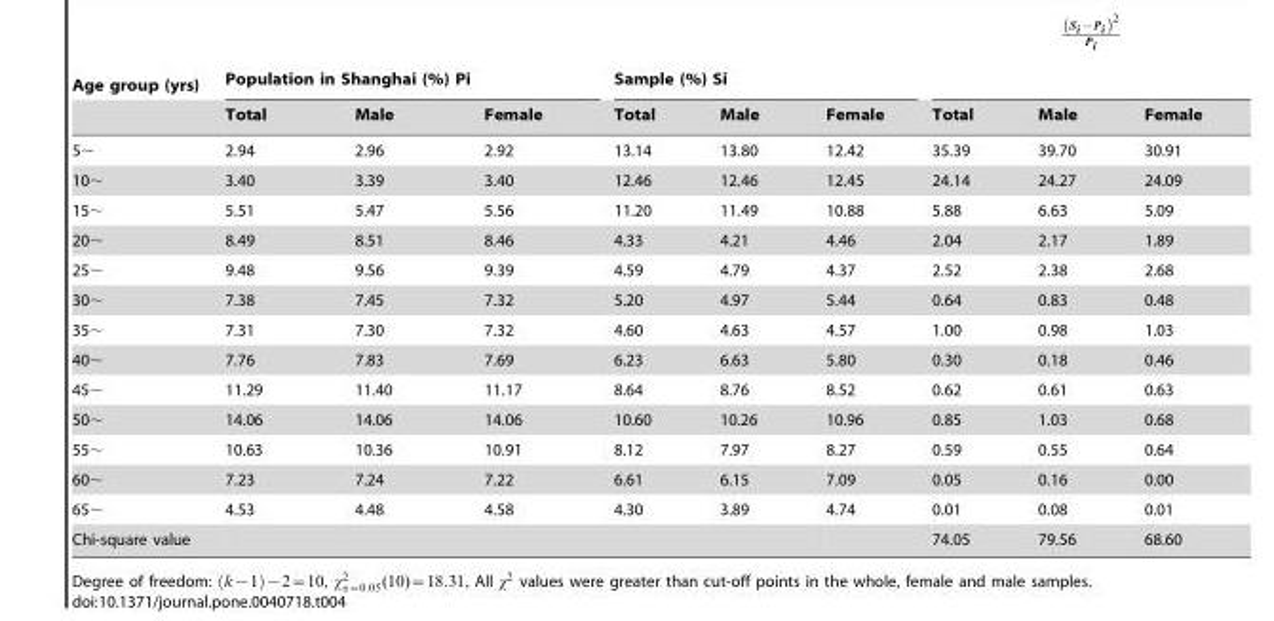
<table><thead><tr><td rowspan="2">Age group (yrs)</td><td colspan="3">Population in Shanghai (%) Pi</td><td colspan="3">Sample (%) Si</td><td rowspan="2">Total</td><td rowspan="2">Male</td><td rowspan="2">Female</td></tr><tr><td>Total</td><td>Male</td><td>Female</td><td>Total</td><td>Male</td><td>Female</td></tr></thead><tbody><tr><td>5∼</td><td>2.94</td><td>2.96</td><td>2.92</td><td>13.14</td><td>13.80</td><td>12.42</td><td>35.39</td><td>39.70</td><td>30.91</td></tr><tr><td>10∼</td><td>3.40</td><td>3.39</td><td>3.40</td><td>12.46</td><td>12.46</td><td>12.45</td><td>24.14</td><td>24.27</td><td>24.09</td></tr><tr><td>15∼</td><td>5.51</td><td>5.47</td><td>5.56</td><td>11.20</td><td>11.49</td><td>10.88</td><td>5.88</td><td>6.63</td><td>5.09</td></tr><tr><td>20∼</td><td>8.49</td><td>8.51</td><td>8.46</td><td>4.33</td><td>4.21</td><td>4.46</td><td>2.04</td><td>2.17</td><td>1.89</td></tr><tr><td>25∼</td><td>9.48</td><td>9.56</td><td>9.39</td><td>4.59</td><td>4.79</td><td>4.37</td><td>2.52</td><td>2.38</td><td>2.68</td></tr><tr><td>30∼</td><td>7.38</td><td>7.45</td><td>7.32</td><td>5.20</td><td>4.97</td><td>5.44</td><td>0.64</td><td>0.83</td><td>0.48</td></tr><tr><td>35∼</td><td>7.31</td><td>7.30</td><td>7.32</td><td>4.60</td><td>4.63</td><td>4.57</td><td>1.00</td><td>0.98</td><td>1.03</td></tr><tr><td>40∼</td><td>7.76</td><td>7.83</td><td>7.69</td><td>6.23</td><td>6.63</td><td>5.80</td><td>0.30</td><td>0.18</td><td>0.46</td></tr><tr><td>45∼</td><td>11.29</td><td>11.40</td><td>11.17</td><td>8.64</td><td>8.76</td><td>8.52</td><td>0.62</td><td>0.61</td><td>0.63</td></tr><tr><td>50∼</td><td>14.06</td><td>14.06</td><td>14.06</td><td>10.60</td><td>10.26</td><td>10.96</td><td>0.85</td><td>1.03</td><td>0.68</td></tr><tr><td>55∼</td><td>10.63</td><td>10.36</td><td>10.91</td><td>8.12</td><td>7.97</td><td>8.27</td><td>0.59</td><td>0.55</td><td>0.64</td></tr><tr><td>60∼</td><td>7.23</td><td>7.24</td><td>7.22</td><td>6.61</td><td>6.15</td><td>7.09</td><td>0.05</td><td>0.16</td><td>0.00</td></tr><tr><td>65∼</td><td>4.53</td><td>4.48</td><td>4.58</td><td>4.30</td><td>3.89</td><td>4.74</td><td>0.01</td><td>0.08</td><td>0.01</td></tr><tr><td>Chi-square value</td><td></td><td></td><td></td><td></td><td></td><td></td><td>74.05</td><td>79.56</td><td>68.60</td></tr></tbody></table>